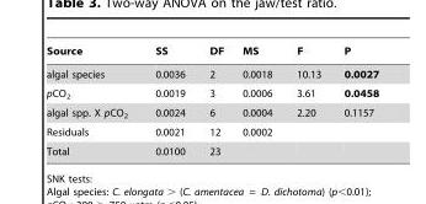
<table><thead><tr><td>Source</td><td>SS</td><td>DF</td><td>MS</td><td>F</td><td>P</td></tr></thead><tbody><tr><td>algal species</td><td>0.0036</td><td>2</td><td>0.0018</td><td>10.13</td><td>0.0027</td></tr><tr><td>pCO<sub>2</sub></td><td>0.0019</td><td>3</td><td>0.0006</td><td>3.61</td><td>0.0458</td></tr><tr><td>algal spp. X pCO<sub>2</sub></td><td>0.0024</td><td>6</td><td>0.0004</td><td>2.20</td><td>0.1157</td></tr><tr><td>Residuals</td><td>0.0021</td><td>12</td><td>0.0002</td><td></td><td></td></tr><tr><td>Total</td><td>0.0100</td><td>23</td><td></td><td></td><td></td></tr></tbody></table>